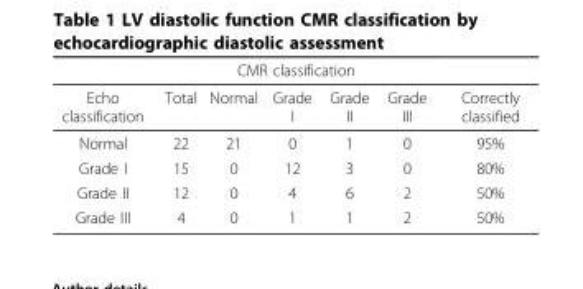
<table><thead><tr><td colspan="7">CMR classification</td></tr><tr><td>Echo classification</td><td>Total</td><td>Normal</td><td>Grade I</td><td>Grade II</td><td>Grade III</td><td>Correctly classified</td></tr></thead><tbody><tr><td>Normal</td><td>22</td><td>21</td><td>0</td><td>1</td><td>0</td><td>95%</td></tr><tr><td>Grade I</td><td>15</td><td>0</td><td>12</td><td>3</td><td>0</td><td>80%</td></tr><tr><td>Grade II</td><td>12</td><td>0</td><td>4</td><td>6</td><td>2</td><td>50%</td></tr><tr><td>Grade III</td><td>4</td><td>0</td><td>1</td><td>1</td><td>2</td><td>50%</td></tr></tbody></table>